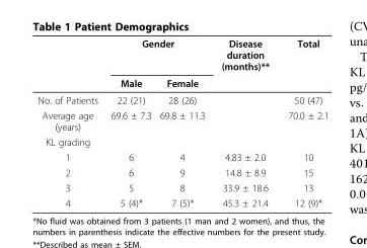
<table><thead><tr><td rowspan="2"></td><td colspan="2">Gender</td><td rowspan="2">Disease duration (months)**</td><td rowspan="2">Total</td></tr><tr><td>Male</td><td>Female</td></tr></thead><tbody><tr><td>No. of Patients</td><td>22 (21)</td><td>28 (26)</td><td></td><td>50 (47)</td></tr><tr><td>Average age (years)</td><td>69.6 ± 7.3</td><td>69.8 ± 11.3</td><td></td><td>70.0 ± 2.1</td></tr><tr><td colspan="5">KL grading</td></tr><tr><td>1</td><td>6</td><td>4</td><td>4.83 ± 2.0</td><td>10</td></tr><tr><td>2</td><td>6</td><td>9</td><td>14.8 ± 8.9</td><td>15</td></tr><tr><td>3</td><td>5</td><td>8</td><td>33.9 ± 18.6</td><td>13</td></tr><tr><td>4</td><td>5 (4)*</td><td>7 (5)*</td><td>45.3 ± 21.4</td><td>12 (9)*</td></tr></tbody></table>